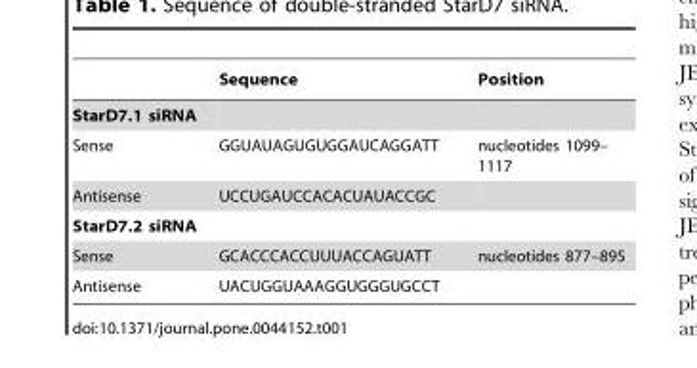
<table><thead><tr><td></td><td>Sequence</td><td>Position</td></tr></thead><tbody><tr><td colspan="3">StarD7.1 siRNA</td></tr><tr><td>Sense</td><td>GGUAUAGUGUGGAUCAGGATT</td><td>nucleotides 1099– 1117</td></tr><tr><td>Antisense</td><td>UCCUGAUCCACACUAUACCGC</td><td></td></tr><tr><td colspan="3">StarD7.2 siRNA</td></tr><tr><td>Sense</td><td>GCACCCACCUUUACCAGUATT</td><td>nucleotides 877–895</td></tr><tr><td>Antisense</td><td>UACUGGUAAAGGUGGGUGCCT</td><td></td></tr></tbody></table>